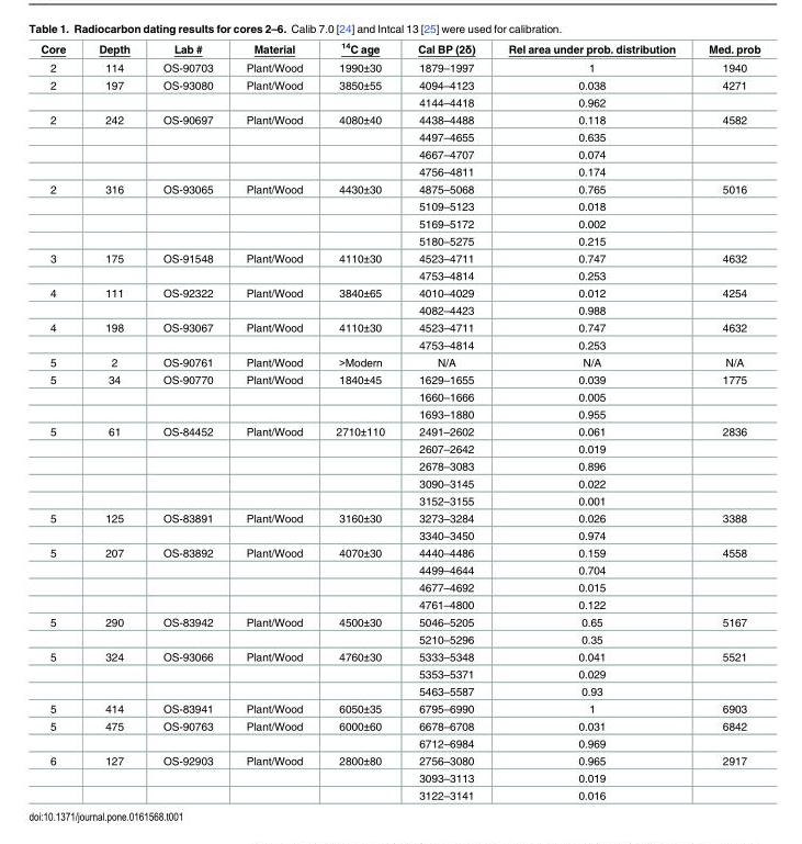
<table><thead><tr><td>Core</td><td>Depth</td><td>Lab #</td><td>Material</td><td><sup>14</sup>C age</td><td>Cal BP (2δ)</td><td>Rel area under prob. distribution</td><td>Med. prob</td></tr></thead><tbody><tr><td>2</td><td>114</td><td>OS-90703</td><td>Plant/Wood</td><td>1990±30</td><td>1879–1997</td><td>1</td><td>1940</td></tr><tr><td rowspan="2">2</td><td>197</td><td>OS-93080</td><td>Plant/Wood</td><td>3850±55</td><td>4094–4123</td><td>0.038</td><td>4271</td></tr><tr><td></td><td></td><td></td><td></td><td>4144–4418</td><td>0.962</td><td></td></tr><tr><td rowspan="4">2</td><td>242</td><td>OS-90697</td><td>Plant/Wood</td><td>4080±40</td><td>4438–4488</td><td>0.118</td><td>4582</td></tr><tr><td></td><td></td><td></td><td></td><td>4497–4655</td><td>0.635</td><td></td></tr><tr><td></td><td></td><td></td><td></td><td>4667–4707</td><td>0.074</td><td></td></tr><tr><td></td><td></td><td></td><td></td><td>4756–4811</td><td>0.174</td><td></td></tr><tr><td rowspan="4">2</td><td>316</td><td>OS-93065</td><td>Plant/Wood</td><td>4430±30</td><td>4875–5068</td><td>0.765</td><td>5016</td></tr><tr><td></td><td></td><td></td><td></td><td>5109–5123</td><td>0.018</td><td></td></tr><tr><td></td><td></td><td></td><td></td><td>5169–5172</td><td>0.002</td><td></td></tr><tr><td></td><td></td><td></td><td></td><td>5180–5275</td><td>0.215</td><td></td></tr><tr><td rowspan="2">3</td><td>175</td><td>OS-91548</td><td>Plant/Wood</td><td>4110±30</td><td>4523–4711</td><td>0.747</td><td>4632</td></tr><tr><td></td><td></td><td></td><td></td><td>4753–4814</td><td>0.253</td><td></td></tr><tr><td rowspan="2">4</td><td>111</td><td>OS-92322</td><td>Plant/Wood</td><td>3840±65</td><td>4010–4029</td><td>0.012</td><td>4254</td></tr><tr><td></td><td></td><td></td><td></td><td>4082–4423</td><td>0.988</td><td></td></tr><tr><td rowspan="2">4</td><td>198</td><td>OS-93067</td><td>Plant/Wood</td><td>4110±30</td><td>4523–4711</td><td>0.747</td><td>4632</td></tr><tr><td></td><td></td><td></td><td></td><td>4753–4814</td><td>0.253</td><td></td></tr><tr><td>5</td><td>2</td><td>OS-90761</td><td>Plant/Wood</td><td>&gt;Modern</td><td>N/A</td><td>N/A</td><td>N/A</td></tr><tr><td rowspan="3">5</td><td>34</td><td>OS-90770</td><td>Plant/Wood</td><td>1840±45</td><td>1629–1655</td><td>0.039</td><td>1775</td></tr><tr><td></td><td></td><td></td><td></td><td>1660–1666</td><td>0.005</td><td></td></tr><tr><td></td><td></td><td></td><td></td><td>1693–1880</td><td>0.955</td><td></td></tr><tr><td rowspan="5">5</td><td>61</td><td>OS-84452</td><td>Plant/Wood</td><td>2710±110</td><td>2491–2602</td><td>0.061</td><td>2836</td></tr><tr><td></td><td></td><td></td><td></td><td>2607–2642</td><td>0.019</td><td></td></tr><tr><td></td><td></td><td></td><td></td><td>2678–3083</td><td>0.896</td><td></td></tr><tr><td></td><td></td><td></td><td></td><td>3090–3145</td><td>0.022</td><td></td></tr><tr><td></td><td></td><td></td><td></td><td>3152–3155</td><td>0.001</td><td></td></tr><tr><td rowspan="2">5</td><td>125</td><td>OS-83891</td><td>Plant/Wood</td><td>3160±30</td><td>3273–3284</td><td>0.026</td><td>3388</td></tr><tr><td></td><td></td><td></td><td></td><td>3340–3450</td><td>0.974</td><td></td></tr><tr><td rowspan="4">5</td><td>207</td><td>OS-83892</td><td>Plant/Wood</td><td>4070±30</td><td>4440–4486</td><td>0.159</td><td>4558</td></tr><tr><td></td><td></td><td></td><td></td><td>4499–4644</td><td>0.704</td><td></td></tr><tr><td></td><td></td><td></td><td></td><td>4677–4692</td><td>0.015</td><td></td></tr><tr><td></td><td></td><td></td><td></td><td>4761–4800</td><td>0.122</td><td></td></tr><tr><td rowspan="2">5</td><td>290</td><td>OS-83942</td><td>Plant/Wood</td><td>4500±30</td><td>5046–5205</td><td>0.65</td><td>5167</td></tr><tr><td></td><td></td><td></td><td></td><td>5210–5296</td><td>0.35</td><td></td></tr><tr><td rowspan="3">5</td><td>324</td><td>OS-93066</td><td>Plant/Wood</td><td>4760±30</td><td>5333–5348</td><td>0.041</td><td>5521</td></tr><tr><td></td><td></td><td></td><td></td><td>5353–5371</td><td>0.029</td><td></td></tr><tr><td></td><td></td><td></td><td></td><td>5463–5587</td><td>0.93</td><td></td></tr><tr><td>5</td><td>414</td><td>OS-83941</td><td>Plant/Wood</td><td>6050±35</td><td>6795–6990</td><td>1</td><td>6903</td></tr><tr><td rowspan="2">5</td><td>475</td><td>OS-90763</td><td>Plant/Wood</td><td>6000±60</td><td>6678–6708</td><td>0.031</td><td>6842</td></tr><tr><td></td><td></td><td></td><td></td><td>6712–6984</td><td>0.969</td><td></td></tr><tr><td rowspan="3">6</td><td>127</td><td>OS-92903</td><td>Plant/Wood</td><td>2800±80</td><td>2756–3080</td><td>0.965</td><td>2917</td></tr><tr><td></td><td></td><td></td><td></td><td>3093–3113</td><td>0.019</td><td></td></tr><tr><td></td><td></td><td></td><td></td><td>3122–3141</td><td>0.016</td><td></td></tr></tbody></table>